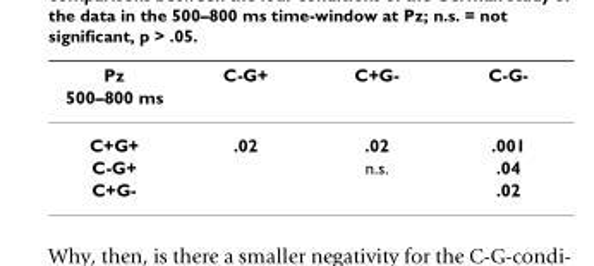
<table><thead><tr><td rowspan="2">Pz 500–800 ms</td><td rowspan="2">C-G+</td><td rowspan="2">C+G-</td><td rowspan="2">C-G-</td></tr><tr></tr></thead><tbody><tr><td>C+G+</td><td>.02</td><td>.02</td><td>.001</td></tr><tr><td>C-G+</td><td></td><td>n.s.</td><td>.04</td></tr><tr><td>C+G-</td><td></td><td></td><td>.02</td></tr></tbody></table>